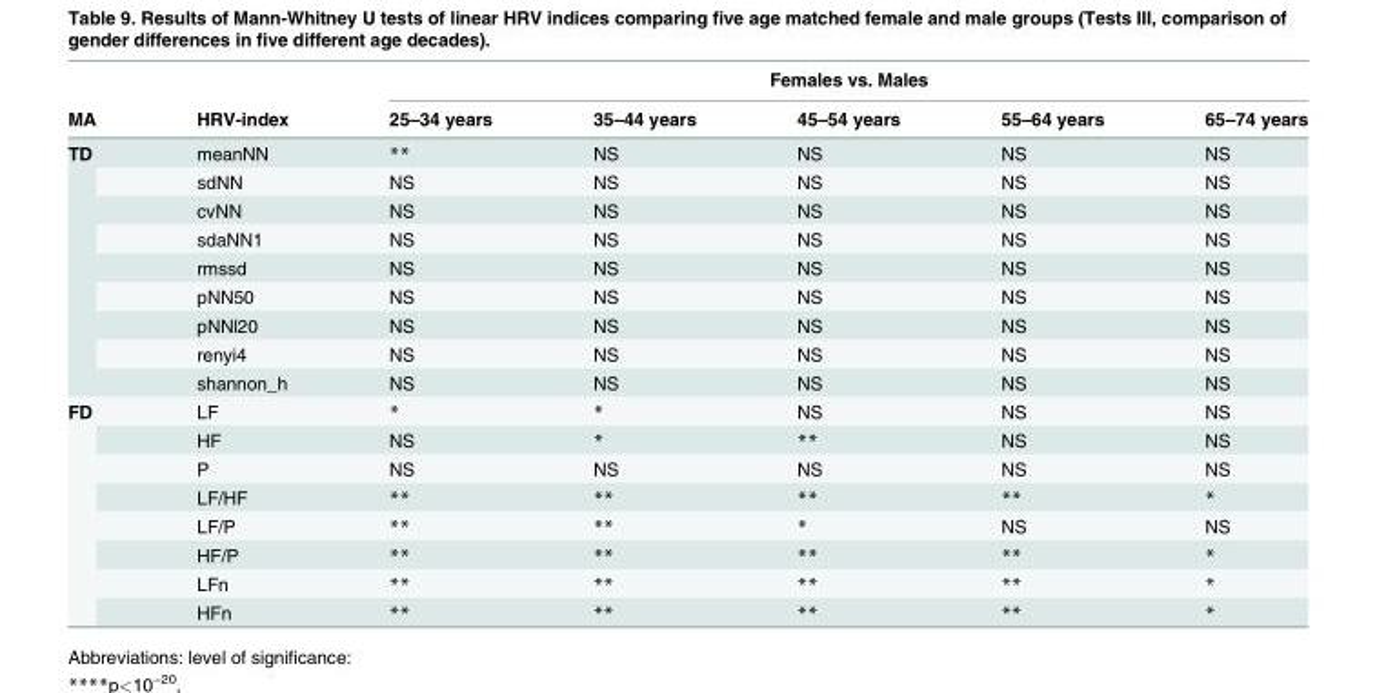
<table><thead><tr><td rowspan="2">MA</td><td rowspan="2">HRV-index</td><td colspan="5">Females vs. Males</td></tr><tr><td>25–34 years</td><td>35–44 years</td><td>45–54 years</td><td>55–64 years</td><td>65–74 years</td></tr></thead><tbody><tr><td rowspan="9">TD</td><td>meanNN</td><td>**</td><td>NS</td><td>NS</td><td>NS</td><td>NS</td></tr><tr><td>sdNN</td><td>NS</td><td>NS</td><td>NS</td><td>NS</td><td>NS</td></tr><tr><td>cvNN</td><td>NS</td><td>NS</td><td>NS</td><td>NS</td><td>NS</td></tr><tr><td>sdaNN1</td><td>NS</td><td>NS</td><td>NS</td><td>NS</td><td>NS</td></tr><tr><td>rmssd</td><td>NS</td><td>NS</td><td>NS</td><td>NS</td><td>NS</td></tr><tr><td>pNN50</td><td>NS</td><td>NS</td><td>NS</td><td>NS</td><td>NS</td></tr><tr><td>pNNl20</td><td>NS</td><td>NS</td><td>NS</td><td>NS</td><td>NS</td></tr><tr><td>renyi4</td><td>NS</td><td>NS</td><td>NS</td><td>NS</td><td>NS</td></tr><tr><td>shannon_h</td><td>NS</td><td>NS</td><td>NS</td><td>NS</td><td>NS</td></tr><tr><td rowspan="8">FD</td><td>LF</td><td>*</td><td>*</td><td>NS</td><td>NS</td><td>NS</td></tr><tr><td>HF</td><td>NS</td><td>*</td><td>**</td><td>NS</td><td>NS</td></tr><tr><td>P</td><td>NS</td><td>NS</td><td>NS</td><td>NS</td><td>NS</td></tr><tr><td>LF/HF</td><td>**</td><td>**</td><td>**</td><td>**</td><td>*</td></tr><tr><td>LF/P</td><td>**</td><td>**</td><td>*</td><td>NS</td><td>NS</td></tr><tr><td>HF/P</td><td>**</td><td>**</td><td>**</td><td>**</td><td>*</td></tr><tr><td>LFn</td><td>**</td><td>**</td><td>**</td><td>**</td><td>*</td></tr><tr><td>HFn</td><td>**</td><td>**</td><td>**</td><td>**</td><td>*</td></tr></tbody></table>